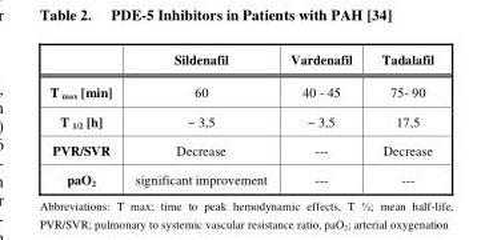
<table><thead><tr><td></td><td>Sildenafil</td><td>Vardenafil</td><td>Tadalafil</td></tr></thead><tbody><tr><td>T <sub>max</sub> [min]</td><td>60</td><td>40 - 45</td><td>75- 90</td></tr><tr><td>T 1/2 [h]</td><td>~ 3,5</td><td>~ 3,5</td><td>17,5</td></tr><tr><td>PVR/SVR</td><td>Decrease</td><td>---</td><td>Decrease</td></tr><tr><td>paO<sub>2</sub></td><td>significant improvement</td><td>---</td><td>---</td></tr></tbody></table>